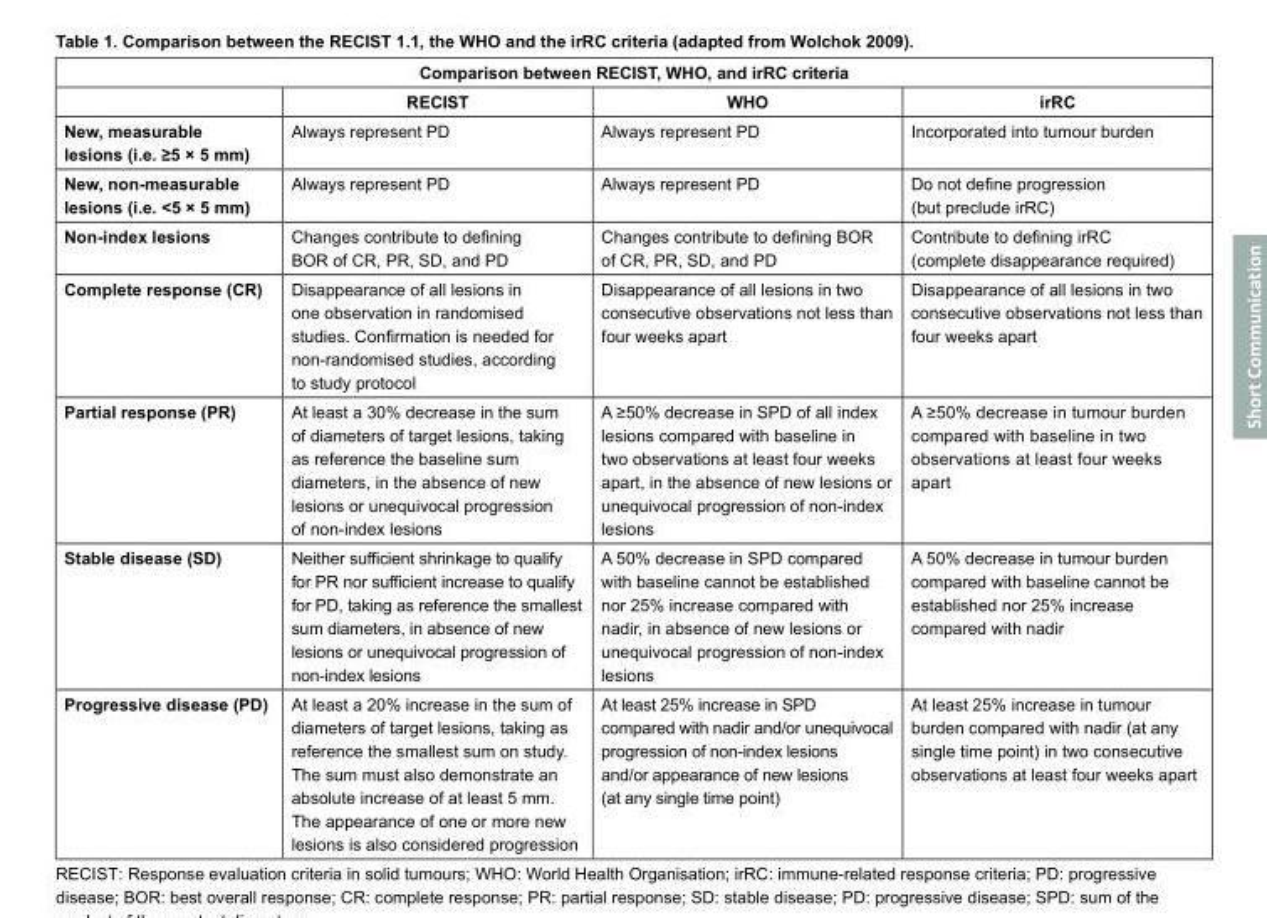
<table><thead><tr><td colspan="4">Comparison between RECIST, WHO, and irRC criteria</td></tr><tr><td></td><td>RECIST</td><td>WHO</td><td>irRC</td></tr></thead><tbody><tr><td>New, measurable lesions (i.e. ≥5 × 5 mm)</td><td>Always represent PD</td><td>Always represent PD</td><td>Incorporated into tumour burden</td></tr><tr><td>New, non-measurable lesions (i.e. &lt;5 × 5 mm)</td><td>Always represent PD</td><td>Always represent PD</td><td>Do not define progression (but preclude irRC)</td></tr><tr><td>Non-index lesions</td><td>Changes contribute to defining BOR of CR, PR, SD, and PD</td><td>Changes contribute to defining BOR of CR, PR, SD, and PD</td><td>Contribute to defining irRC (complete disappearance required)</td></tr><tr><td>Complete response (CR)</td><td>Disappearance of all lesions in one observation in randomised studies. Confirmation is needed for non-randomised studies, according to study protocol</td><td>Disappearance of all lesions in two consecutive observations not less than four weeks apart</td><td>Disappearance of all lesions in two consecutive observations not less than four weeks apart</td></tr><tr><td>Partial response (PR)</td><td>At least a 30% decrease in the sum of diameters of target lesions, taking as reference the baseline sum diameters, in the absence of new lesions or unequivocal progression of non-index lesions</td><td>A ≥50% decrease in SPD of all index lesions compared with baseline in two observations at least four weeks apart, in the absence of new lesions or unequivocal progression of non-index lesions</td><td>A ≥50% decrease in tumour burden compared with baseline in two observations at least four weeks apart</td></tr><tr><td>Stable disease (SD)</td><td>Neither sufficient shrinkage to qualify for PR nor sufficient increase to qualify for PD, taking as reference the smallest sum diameters, in absence of new lesions or unequivocal progression of non-index lesions</td><td>A 50% decrease in SPD compared with baseline cannot be established nor 25% increase compared with nadir, in absence of new lesions or unequivocal progression of non-index lesions</td><td>A 50% decrease in tumour burden compared with baseline cannot be established nor 25% increase compared with nadir</td></tr><tr><td>Progressive disease (PD)</td><td>At least a 20% increase in the sum of diameters of target lesions, taking as reference the smallest sum on study. The sum must also demonstrate an absolute increase of at least 5 mm. The appearance of one or more new lesions is also considered progression</td><td>At least 25% increase in SPD compared with nadir and/or unequivocal progression of non-index lesions and/or appearance of new lesions (at any single time point)</td><td>At least 25% increase in tumour burden compared with nadir (at any single time point) in two consecutive observations at least four weeks apart</td></tr></tbody></table>